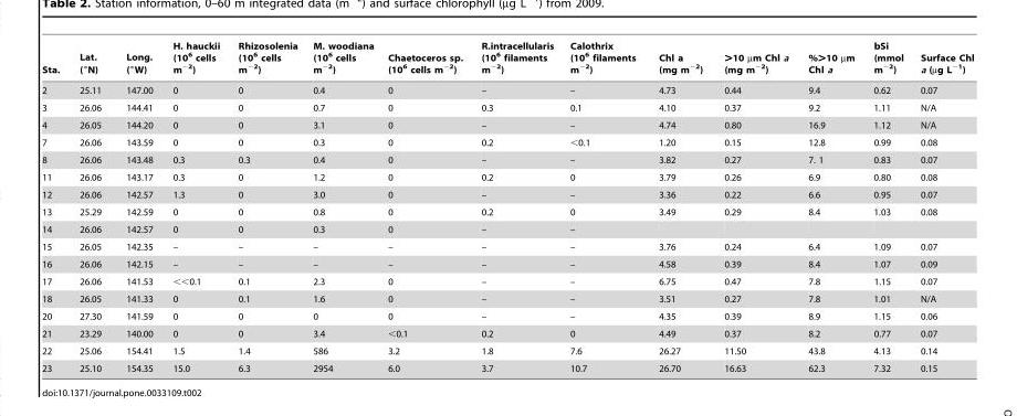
<table><thead><tr><td>Sta.</td><td>Lat. (°N)</td><td>Long. (°W)</td><td>H. hauckii (10<sup>6</sup> cells m<sup>−2</sup>)</td><td>Rhizosolenia (10<sup>6</sup> cells m<sup>−2</sup>)</td><td>M. woodiana (10<sup>6</sup> cells m<sup>−2</sup>)</td><td>Chaetoceros sp. (10<sup>6</sup> cells m<sup>−2</sup>)</td><td>R.intracellularis (10<sup>6</sup> filaments m<sup>−2</sup>)</td><td>Calothrix (10<sup>6</sup> filaments m<sup>−2</sup>)</td><td>Chl a (mg m<sup>−2</sup>)</td><td>&gt;10 µm Chl a (mg m<sup>−2</sup>)</td><td>%&gt;10 µm Chl a</td><td>bSi (mmol m<sup>−2</sup>)</td><td>Surface Chl a (µg L<sup>−1</sup>)</td></tr></thead><tbody><tr><td>2</td><td>25.11</td><td>147.00</td><td>0</td><td>0</td><td>0.4</td><td>0</td><td>–</td><td>–</td><td>4.73</td><td>0.44</td><td>9.4</td><td>0.62</td><td>0.07</td></tr><tr><td>3</td><td>26.06</td><td>144.41</td><td>0</td><td>0</td><td>0.7</td><td>0</td><td>0.3</td><td>0.1</td><td>4.10</td><td>0.37</td><td>9.2</td><td>1.11</td><td>N/A</td></tr><tr><td>4</td><td>26.05</td><td>144.20</td><td>0</td><td>0</td><td>3.1</td><td>0</td><td>–</td><td>–</td><td>4.74</td><td>0.80</td><td>16.9</td><td>1.12</td><td>N/A</td></tr><tr><td>7</td><td>26.06</td><td>143.59</td><td>0</td><td>0</td><td>0.3</td><td>0</td><td>0.2</td><td>&lt;0.1</td><td>1.20</td><td>0.15</td><td>12.8</td><td>0.99</td><td>0.08</td></tr><tr><td>8</td><td>26.06</td><td>143.48</td><td>0.3</td><td>0.3</td><td>0.4</td><td>0</td><td>–</td><td>–</td><td>3.82</td><td>0.27</td><td>7. 1</td><td>0.83</td><td>0.07</td></tr><tr><td>11</td><td>26.06</td><td>143.17</td><td>0.3</td><td>0</td><td>1.2</td><td>0</td><td>0.2</td><td>0</td><td>3.79</td><td>0.26</td><td>6.9</td><td>0.80</td><td>0.08</td></tr><tr><td>12</td><td>26.06</td><td>142.57</td><td>1.3</td><td>0</td><td>3.0</td><td>0</td><td>–</td><td>–</td><td>3.36</td><td>0.22</td><td>6.6</td><td>0.95</td><td>0.07</td></tr><tr><td>13</td><td>25.29</td><td>142.59</td><td>0</td><td>0</td><td>0.8</td><td>0</td><td>0.2</td><td>0</td><td>3.49</td><td>0.29</td><td>8.4</td><td>1.03</td><td>0.08</td></tr><tr><td>14</td><td>26.06</td><td>142.57</td><td>0</td><td>0</td><td>0.3</td><td>0</td><td>–</td><td>–</td><td></td><td></td><td></td><td></td><td></td></tr><tr><td>15</td><td>26.05</td><td>142.35</td><td>–</td><td>–</td><td>–</td><td>–</td><td>–</td><td>–</td><td>3.76</td><td>0.24</td><td>6.4</td><td>1.09</td><td>0.07</td></tr><tr><td>16</td><td>26.06</td><td>142.15</td><td>–</td><td>–</td><td>–</td><td>–</td><td>–</td><td>–</td><td>4.58</td><td>0.39</td><td>8.4</td><td>1.07</td><td>0.09</td></tr><tr><td>17</td><td>26.06</td><td>141.53</td><td>&lt;&lt;0.1</td><td>0.1</td><td>2.3</td><td>0</td><td>–</td><td>–</td><td>6.75</td><td>0.47</td><td>7.8</td><td>1.15</td><td>0.07</td></tr><tr><td>18</td><td>26.05</td><td>141.33</td><td>0</td><td>0.1</td><td>1.6</td><td>0</td><td>–</td><td>–</td><td>3.51</td><td>0.27</td><td>7.8</td><td>1.01</td><td>N/A</td></tr><tr><td>20</td><td>27.30</td><td>141.59</td><td>0</td><td>0</td><td>0</td><td>0</td><td>–</td><td>–</td><td>4.35</td><td>0.39</td><td>8.9</td><td>1.15</td><td>0.06</td></tr><tr><td>21</td><td>23.29</td><td>140.00</td><td>0</td><td>0</td><td>3.4</td><td>&lt;0.1</td><td>0.2</td><td>0</td><td>4.49</td><td>0.37</td><td>8.2</td><td>0.77</td><td>0.07</td></tr><tr><td>22</td><td>25.06</td><td>154.41</td><td>1.5</td><td>1.4</td><td>586</td><td>3.2</td><td>1.8</td><td>7.6</td><td>26.27</td><td>11.50</td><td>43.8</td><td>4.13</td><td>0.14</td></tr><tr><td>23</td><td>25.10</td><td>154.35</td><td>15.0</td><td>6.3</td><td>2954</td><td>6.0</td><td>3.7</td><td>10.7</td><td>26.70</td><td>16.63</td><td>62.3</td><td>7.32</td><td>0.15</td></tr></tbody></table>